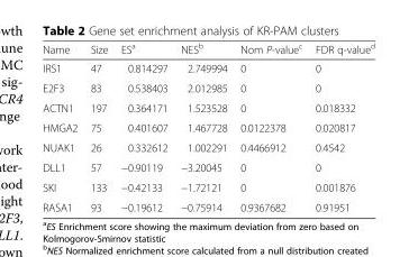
<table><thead><tr><td>Name</td><td>Size</td><td>ES<sup>a</sup></td><td>NES<sup>b</sup></td><td>Nom P-value<sup>c</sup></td><td>FDR q-value<sup>d</sup></td></tr></thead><tbody><tr><td>IRS1</td><td>47</td><td>0.814297</td><td>2.749994</td><td>0</td><td>0</td></tr><tr><td>E2F3</td><td>83</td><td>0.538403</td><td>2.012985</td><td>0</td><td>0</td></tr><tr><td>ACTN1</td><td>197</td><td>0.364171</td><td>1.523528</td><td>0</td><td>0.018332</td></tr><tr><td>HMGA2</td><td>75</td><td>0.401607</td><td>1.467728</td><td>0.0122378</td><td>0.020817</td></tr><tr><td>NUAK1</td><td>26</td><td>0.332612</td><td>1.002291</td><td>0.4466912</td><td>0.4542</td></tr><tr><td>DLL1</td><td>57</td><td>−0.90119</td><td>−3.20045</td><td>0</td><td>0</td></tr><tr><td>SKI</td><td>133</td><td>−0.42133</td><td>−1.72121</td><td>0</td><td>0.001876</td></tr><tr><td>RASA1</td><td>93</td><td>−0.19612</td><td>−0.75914</td><td>0.9367682</td><td>0.91951</td></tr></tbody></table>